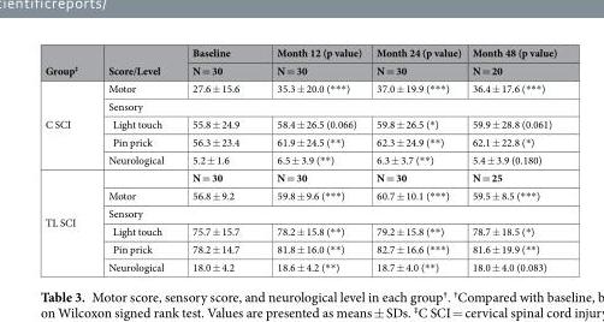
<table><thead><tr><td rowspan="2">Group<sup>‡</sup></td><td rowspan="2">Score/Level</td><td rowspan="2">Baseline N = 30</td><td rowspan="2">Month 12 (p value) N = 30</td><td rowspan="2">Month 24 (p value) N = 30</td><td rowspan="2">Month 48 (p value) N = 20</td></tr><tr></tr></thead><tbody><tr><td rowspan="5">C SCI</td><td>Motor</td><td>27.6 ± 15.6</td><td>35.3 ± 20.0 (***)</td><td>37.0 ± 19.9 (***)</td><td>36.4 ± 17.6 (***)</td></tr><tr><td colspan="5">Sensory</td></tr><tr><td>Light touch</td><td>55.8 ± 24.9</td><td>58.4 ± 26.5 (0.066)</td><td>59.8 ± 26.5 (*)</td><td>59.9 ± 28.8 (0.061)</td></tr><tr><td>Pin prick</td><td>56.3 ± 23.4</td><td>61.9 ± 24.5 (**)</td><td>62.3 ± 24.9 (**)</td><td>62.1 ± 22.8 (*)</td></tr><tr><td>Neurological</td><td>5.2 ± 1.6</td><td>6.5 ± 3.9 (**)</td><td>6.3 ± 3.7 (**)</td><td>5.4 ± 3.9 (0.180)</td></tr><tr><td rowspan="6">TL SCI</td><td></td><td>N = 30</td><td>N = 30</td><td>N = 30</td><td>N = 25</td></tr><tr><td>Motor</td><td>56.8 ± 9.2</td><td>59.8 ± 9.6 (***)</td><td>60.7 ± 10.1 (***)</td><td>59.5 ± 8.5 (***)</td></tr><tr><td colspan="5">Sensory</td></tr><tr><td>Light touch</td><td>75.7 ± 15.7</td><td>78.2 ± 15.8 (**)</td><td>79.2 ± 15.8 (**)</td><td>78.7 ± 18.5 (*)</td></tr><tr><td>Pin prick</td><td>78.2 ± 14.7</td><td>81.8 ± 16.0 (**)</td><td>82.7 ± 16.6 (***)</td><td>81.6 ± 19.9 (**)</td></tr><tr><td>Neurological</td><td>18.0 ± 4.2</td><td>18.6 ± 4.2 (**)</td><td>18.7 ± 4.0 (**)</td><td>18.0 ± 4.0 (0.083)</td></tr></tbody></table>